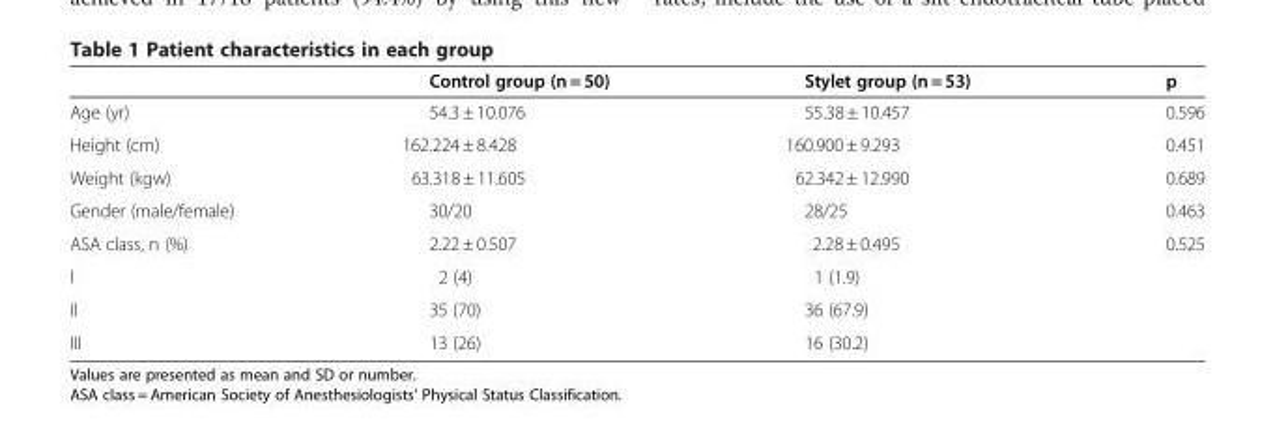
<table><thead><tr><td></td><td>Control group (n = 50)</td><td>Stylet group (n = 53)</td><td>p</td></tr></thead><tbody><tr><td>Age (yr)</td><td>54.3 ± 10.076</td><td>55.38 ± 10.457</td><td>0.596</td></tr><tr><td>Height (cm)</td><td>162.224 ± 8.428</td><td>160.900 ± 9.293</td><td>0.451</td></tr><tr><td>Weight (kgw)</td><td>63.318 ± 11.605</td><td>62.342 ± 12.990</td><td>0.689</td></tr><tr><td>Gender (male/female)</td><td>30/20</td><td>28/25</td><td>0.463</td></tr><tr><td>ASA class, n (%)</td><td>2.22 ± 0.507</td><td>2.28 ± 0.495</td><td>0.525</td></tr><tr><td>I</td><td>2 (4)</td><td>1 (1.9)</td><td></td></tr><tr><td>II</td><td>35 (70)</td><td>36 (67.9)</td><td></td></tr><tr><td>III</td><td>13 (26)</td><td>16 (30.2)</td><td></td></tr></tbody></table>